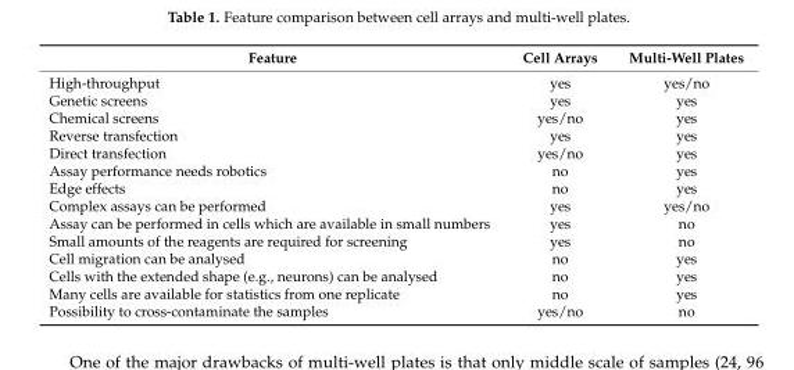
<table><thead><tr><td>Feature</td><td>Cell Arrays</td><td>Multi-Well Plates</td></tr></thead><tbody><tr><td>High-throughput</td><td>yes</td><td>yes/no</td></tr><tr><td>Genetic screens</td><td>yes</td><td>yes</td></tr><tr><td>Chemical screens</td><td>yes/no</td><td>yes</td></tr><tr><td>Reverse transfection</td><td>yes</td><td>yes</td></tr><tr><td>Direct transfection</td><td>yes/no</td><td>yes</td></tr><tr><td>Assay performance needs robotics</td><td>no</td><td>yes</td></tr><tr><td>Edge effects</td><td>no</td><td>yes</td></tr><tr><td>Complex assays can be performed</td><td>yes</td><td>yes/no</td></tr><tr><td>Assay can be performed in cells which are available in small numbers</td><td>yes</td><td>no</td></tr><tr><td>Small amounts of the reagents are required for screening</td><td>yes</td><td>no</td></tr><tr><td>Cell migration can be analysed</td><td>no</td><td>yes</td></tr><tr><td>Cells with the extended shape (e.g., neurons) can be analysed</td><td>no</td><td>yes</td></tr><tr><td>Many cells are available for statistics from one replicate</td><td>no</td><td>yes</td></tr><tr><td>Possibility to cross-contaminate the samples</td><td>yes/no</td><td>no</td></tr></tbody></table>